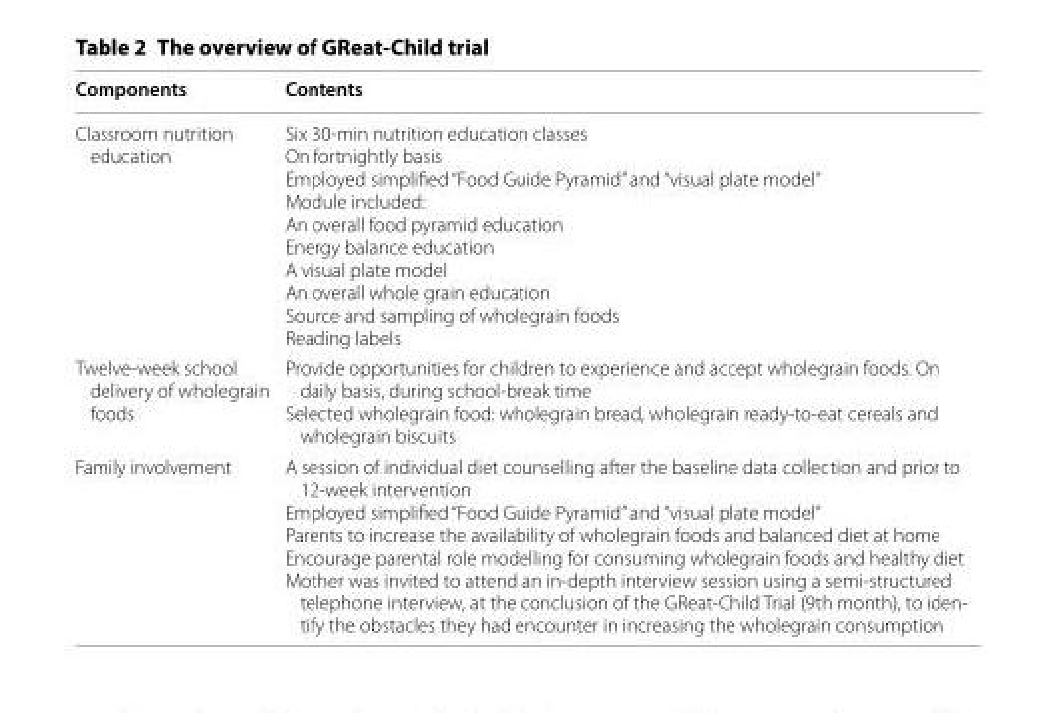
<table><thead><tr><td>Components</td><td>Contents</td></tr></thead><tbody><tr><td>Classroom nutrition education</td><td>Six 30-min nutrition education classes On fortnightly basis Employed simplified “Food Guide Pyramid” and “visual plate model” Module included: An overall food pyramid education Energy balance education A visual plate model An overall whole grain education Source and sampling of wholegrain foods Reading labels</td></tr><tr><td>Twelve-week school delivery of wholegrain foods</td><td>Provide opportunities for children to experience and accept wholegrain foods. On daily basis, during school-break time Selected wholegrain food: wholegrain bread, wholegrain ready-to-eat cereals and wholegrain biscuits</td></tr><tr><td>Family involvement</td><td>A session of individual diet counselling after the baseline data collection and prior to 12-week intervention Employed simplified “Food Guide Pyramid” and “visual plate model” Parents to increase the availability of wholegrain foods and balanced diet at home Encourage parental role modelling for consuming wholegrain foods and healthy diet Mother was invited to attend an in-depth interview session using a semi-structured telephone interview, at the conclusion of the GReat-Child Trial (9th month), to iden- tify the obstacles they had encounter in increasing the wholegrain consumption</td></tr></tbody></table>